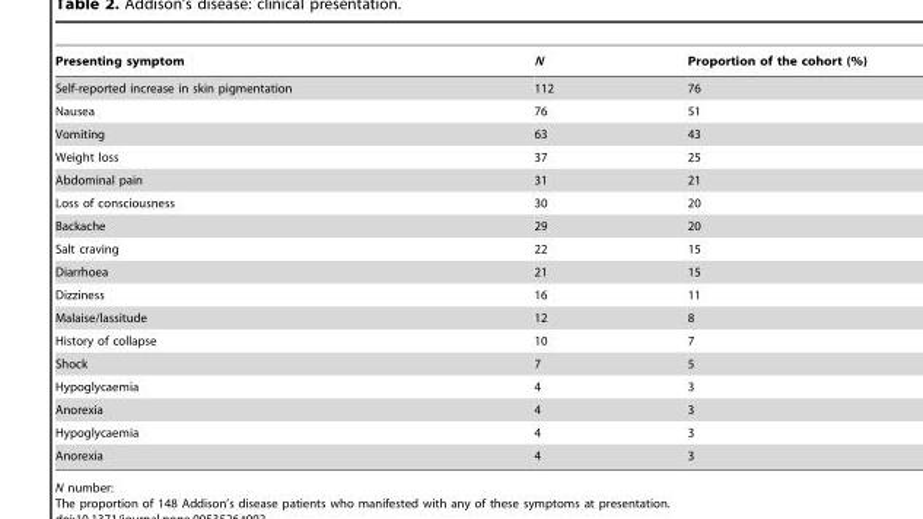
<table><thead><tr><td>Presenting symptom</td><td>N</td><td>Proportion of the cohort (%)</td></tr></thead><tbody><tr><td>Self-reported increase in skin pigmentation</td><td>112</td><td>76</td></tr><tr><td>Nausea</td><td>76</td><td>51</td></tr><tr><td>Vomiting</td><td>63</td><td>43</td></tr><tr><td>Weight loss</td><td>37</td><td>25</td></tr><tr><td>Abdominal pain</td><td>31</td><td>21</td></tr><tr><td>Loss of consciousness</td><td>30</td><td>20</td></tr><tr><td>Backache</td><td>29</td><td>20</td></tr><tr><td>Salt craving</td><td>22</td><td>15</td></tr><tr><td>Diarrhoea</td><td>21</td><td>15</td></tr><tr><td>Dizziness</td><td>16</td><td>11</td></tr><tr><td>Malaise/lassitude</td><td>12</td><td>8</td></tr><tr><td>History of collapse</td><td>10</td><td>7</td></tr><tr><td>Shock</td><td>7</td><td>5</td></tr><tr><td>Hypoglycaemia</td><td>4</td><td>3</td></tr><tr><td>Anorexia</td><td>4</td><td>3</td></tr><tr><td>Hypoglycaemia</td><td>4</td><td>3</td></tr><tr><td>Anorexia</td><td>4</td><td>3</td></tr></tbody></table>